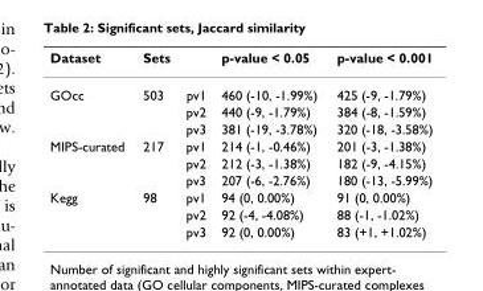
<table><thead><tr><td>Dataset</td><td>Sets</td><td></td><td>p-value &lt; 0.05</td><td>p-value &lt; 0.001</td></tr></thead><tbody><tr><td rowspan="3">GOcc</td><td>503</td><td>pv1</td><td>460 (-10, -1.99%)</td><td>425 (-9, -1.79%)</td></tr><tr><td></td><td>pv2</td><td>440 (-9, -1.79%)</td><td>384 (-8, -1.59%)</td></tr><tr><td></td><td>pv3</td><td>381 (-19, -3.78%)</td><td>320 (-18, -3.58%)</td></tr><tr><td rowspan="3">MIPS-curated</td><td>217</td><td>pv1</td><td>214 (-1, -0.46%)</td><td>201 (-3, -1.38%)</td></tr><tr><td></td><td>pv2</td><td>212 (-3, -1.38%)</td><td>182 (-9, -4.15%)</td></tr><tr><td></td><td>pv3</td><td>207 (-6, -2.76%)</td><td>180 (-13, -5.99%)</td></tr><tr><td rowspan="3">Kegg</td><td>98</td><td>pv1</td><td>94 (0, 0.00%)</td><td>91 (0, 0.00%)</td></tr><tr><td></td><td>pv2</td><td>92 (-4, -4.08%)</td><td>88 (-1, -1.02%)</td></tr><tr><td></td><td>pv3</td><td>92 (0, 0.00%)</td><td>83 (+1, +1.02%)</td></tr></tbody></table>